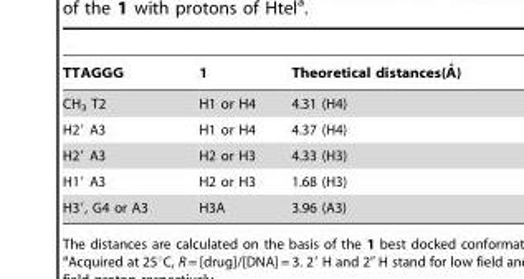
<table><thead><tr><td>TTAGGG</td><td>1</td><td>Theoretical distances(A˚ )</td></tr></thead><tbody><tr><td>CH<sub>3</sub> T2</td><td>H1 or H4</td><td>4.31 (H4)</td></tr><tr><td>H2′ A3</td><td>H1 or H4</td><td>4.37 (H4)</td></tr><tr><td>H2′ A3</td><td>H2 or H3</td><td>4.33 (H3)</td></tr><tr><td>H1′ A3</td><td>H2 or H3</td><td>1.68 (H3)</td></tr><tr><td>H3′, G4 or A3</td><td>H3A</td><td>3.96 (A3)</td></tr></tbody></table>